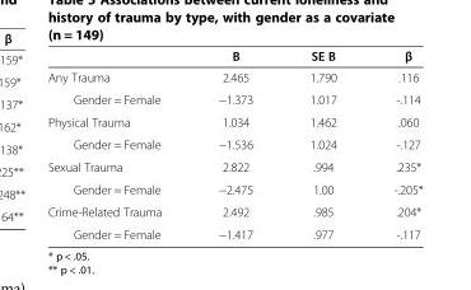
<table><thead><tr><td></td><td>B</td><td>SE B</td><td>β</td></tr></thead><tbody><tr><td>Any Trauma</td><td>2.465</td><td>1.790</td><td>.116</td></tr><tr><td>Gender = Female</td><td>−1.373</td><td>1.017</td><td>-.114</td></tr><tr><td>Physical Trauma</td><td>1.034</td><td>1.462</td><td>.060</td></tr><tr><td>Gender = Female</td><td>−1.536</td><td>1.024</td><td>-.127</td></tr><tr><td>Sexual Trauma</td><td>2.822</td><td>.994</td><td>.235*</td></tr><tr><td>Gender = Female</td><td>−2.475</td><td>1.00</td><td>-.205*</td></tr><tr><td>Crime-Related Trauma</td><td>2.492</td><td>.985</td><td>.204*</td></tr><tr><td>Gender = Female</td><td>−1.417</td><td>.977</td><td>-.117</td></tr></tbody></table>